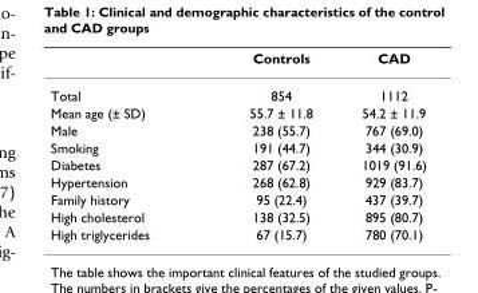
<table><thead><tr><td></td><td>Controls</td><td>CAD</td></tr></thead><tbody><tr><td>Total</td><td>854</td><td>1112</td></tr><tr><td>Mean age (± SD)</td><td>55.7 ± 11.8</td><td>54.2 ± 11.9</td></tr><tr><td>Male</td><td>238 (55.7)</td><td>767 (69.0)</td></tr><tr><td>Smoking</td><td>191 (44.7)</td><td>344 (30.9)</td></tr><tr><td>Diabetes</td><td>287 (67.2)</td><td>1019 (91.6)</td></tr><tr><td>Hypertension</td><td>268 (62.8)</td><td>929 (83.7)</td></tr><tr><td>Family history</td><td>95 (22.4)</td><td>437 (39.7)</td></tr><tr><td>High cholesterol</td><td>138 (32.5)</td><td>895 (80.7)</td></tr><tr><td>High triglycerides</td><td>67 (15.7)</td><td>780 (70.1)</td></tr></tbody></table>